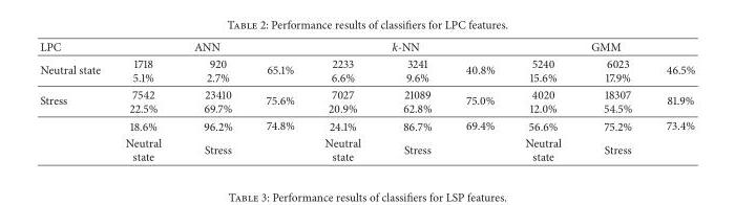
<table><thead><tr><td rowspan="2">LPC Neutral state</td><td colspan="3">ANN</td><td colspan="3">k-NN</td><td colspan="3">GMM</td></tr><tr><td>1718 5.1%</td><td>920 2.7%</td><td>65.1%</td><td>2233 6.6%</td><td>3241 9.6%</td><td>40.8%</td><td>5240 15.6%</td><td>6023 17.9%</td><td>46.5%</td></tr></thead><tbody><tr><td rowspan="3">Stress</td><td>7542 22.5%</td><td>23410 69.7%</td><td>75.6%</td><td>7027 20.9%</td><td>21089 62.8%</td><td>75.0%</td><td>4020 12.0%</td><td>18307 54.5%</td><td>81.9%</td></tr><tr><td>18.6%</td><td>96.2%</td><td>74.8%</td><td>24.1%</td><td>86.7%</td><td>69.4%</td><td>56.6%</td><td>75.2%</td><td>73.4%</td></tr><tr><td>Neutral state</td><td>Stress</td><td></td><td>Neutral state</td><td>Stress</td><td></td><td>Neutral state</td><td>Stress</td><td></td></tr></tbody></table>